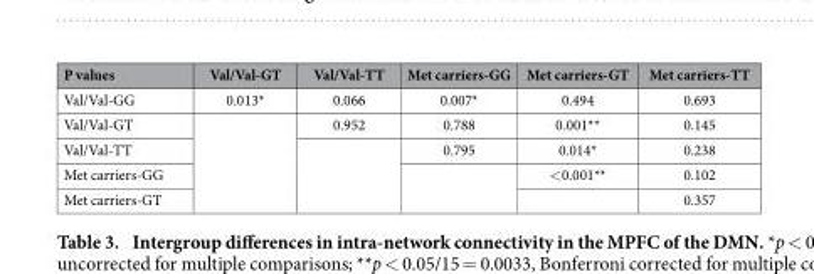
<table><thead><tr><td>P values</td><td>Val/Val-GT</td><td>Val/Val-TT</td><td>Met carriers-GG</td><td>Met carriers-GT</td><td>Met carriers-TT</td></tr></thead><tbody><tr><td>Val/Val-GG</td><td>0.013*</td><td>0.066</td><td>0.007*</td><td>0.494</td><td>0.693</td></tr><tr><td>Val/Val-GT</td><td rowspan="4"></td><td>0.952</td><td>0.788</td><td>0.001**</td><td>0.145</td></tr><tr><td>Val/Val-TT</td><td rowspan="3"></td><td>0.795</td><td>0.014*</td><td>0.238</td></tr><tr><td>Met carriers-GG</td><td rowspan="2"></td><td>&lt; 0.001**</td><td>0.102</td></tr><tr><td>Met carriers-GT</td><td></td><td>0.357</td></tr></tbody></table>